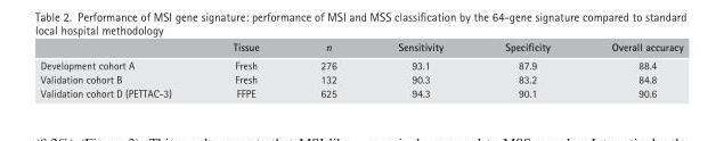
<table><thead><tr><td></td><td>Tissue</td><td>n</td><td>Sensitivity</td><td>Specificity</td><td>Overall accuracy</td></tr></thead><tbody><tr><td>Development cohort A</td><td>Fresh</td><td>276</td><td>93.1</td><td>87.9</td><td>88.4</td></tr><tr><td>Validation cohort B</td><td>Fresh</td><td>132</td><td>90.3</td><td>83.2</td><td>84.8</td></tr><tr><td>Validation cohort D (PETTAC-3)</td><td>FFPE</td><td>625</td><td>94.3</td><td>90.1</td><td>90.6</td></tr></tbody></table>